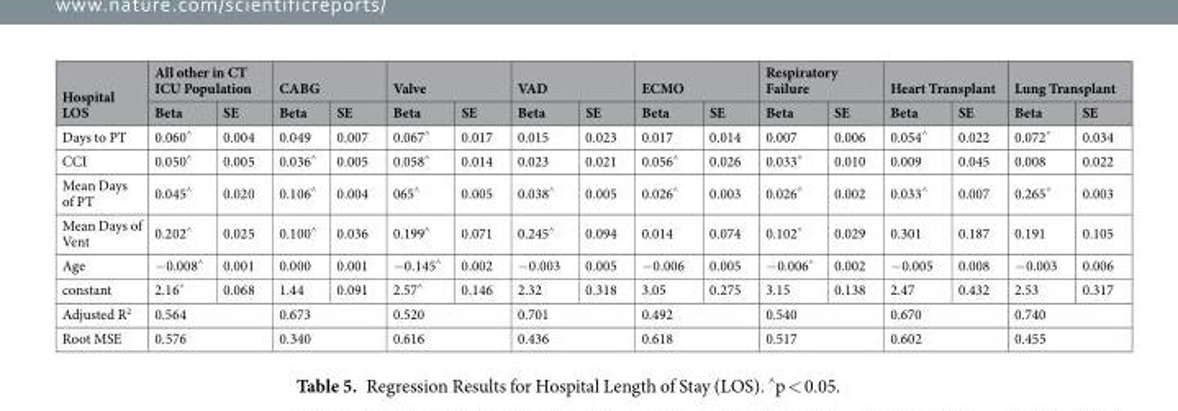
<table><thead><tr><td rowspan="2">Hospital LOS</td><td colspan="2">All other in CT ICU Population</td><td colspan="2">CABG</td><td colspan="2">Valve</td><td colspan="2">VAD</td><td colspan="2">ECMO</td><td colspan="2">Respiratory Failure</td><td colspan="2">Heart Transplant</td><td colspan="2">Lung Transplant</td></tr><tr><td>Beta</td><td>SE</td><td>Beta</td><td>SE</td><td>Beta</td><td>SE</td><td>Beta</td><td>SE</td><td>Beta</td><td>SE</td><td>Beta</td><td>SE</td><td>Beta</td><td>SE</td><td>Beta</td><td>SE</td></tr></thead><tbody><tr><td>Days to PT</td><td>0.060<sup>^</sup></td><td>0.004</td><td>0.049</td><td>0.007</td><td>0.067<sup>^</sup></td><td>0.017</td><td>0.015</td><td>0.023</td><td>0.017</td><td>0.014</td><td>0.007</td><td>0.006</td><td>0.054<sup>^</sup></td><td>0.022</td><td>0.072<sup>^</sup></td><td>0.034</td></tr><tr><td>CCI</td><td>0.050<sup>^</sup></td><td>0.005</td><td>0.036<sup>^</sup></td><td>0.005</td><td>0.058<sup>^</sup></td><td>0.014</td><td>0.023</td><td>0.021</td><td>0.056<sup>^</sup></td><td>0.026</td><td>0.033<sup>^</sup></td><td>0.010</td><td>0.009</td><td>0.045</td><td>0.008</td><td>0.022</td></tr><tr><td>Mean Days of PT</td><td>0.045<sup>^</sup></td><td>0.020</td><td>0.106<sup>^</sup></td><td>0.004</td><td>065<sup>^</sup></td><td>0.005</td><td>0.038<sup>^</sup></td><td>0.005</td><td>0.026<sup>^</sup></td><td>0.003</td><td>0.026<sup>^</sup></td><td>0.002</td><td>0.033<sup>^</sup></td><td>0.007</td><td>0.265<sup>^</sup></td><td>0.003</td></tr><tr><td>Mean Days of Vent</td><td>0.202<sup>^</sup></td><td>0.025</td><td>0.100<sup>^</sup></td><td>0.036</td><td>0.199<sup>^</sup></td><td>0.071</td><td>0.245<sup>^</sup></td><td>0.094</td><td>0.014</td><td>0.074</td><td>0.102<sup>^</sup></td><td>0.029</td><td>0.301</td><td>0.187</td><td>0.191</td><td>0.105</td></tr><tr><td>Age</td><td>−0.008<sup>^</sup></td><td>0.001</td><td>0.000</td><td>0.001</td><td>−0.145<sup>^</sup></td><td>0.002</td><td>−0.003</td><td>0.005</td><td>−0.006</td><td>0.005</td><td>−0.006<sup>^</sup></td><td>0.002</td><td>−0.005</td><td>0.008</td><td>−0.003</td><td>0.006</td></tr><tr><td>constant</td><td>2.16<sup>^</sup></td><td>0.068</td><td>1.44</td><td>0.091</td><td>2.57<sup>^</sup></td><td>0.146</td><td>2.32</td><td>0.318</td><td>3.05</td><td>0.275</td><td>3.15</td><td>0.138</td><td>2.47</td><td>0.432</td><td>2.53</td><td>0.317</td></tr><tr><td>Adjusted R<sup>2</sup></td><td colspan="2">0.564</td><td colspan="2">0.673</td><td colspan="2">0.520</td><td colspan="2">0.701</td><td colspan="2">0.492</td><td colspan="2">0.540</td><td colspan="2">0.670</td><td colspan="2">0.740</td></tr><tr><td>Root MSE</td><td colspan="2">0.576</td><td colspan="2">0.340</td><td colspan="2">0.616</td><td colspan="2">0.436</td><td colspan="2">0.618</td><td colspan="2">0.517</td><td colspan="2">0.602</td><td colspan="2">0.455</td></tr></tbody></table>